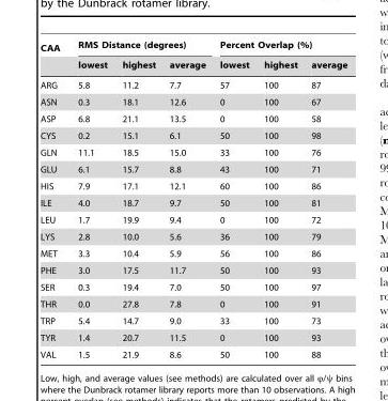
<table><thead><tr><td rowspan="2">CAA</td><td colspan="3">RMS Distance (degrees)</td><td colspan="3">Percent Overlap (%)</td></tr><tr><td>lowest</td><td>highest</td><td>average</td><td>lowest</td><td>highest</td><td>average</td></tr></thead><tbody><tr><td>ARG</td><td>5.8</td><td>11.2</td><td>7.7</td><td>57</td><td>100</td><td>87</td></tr><tr><td>ASN</td><td>0.3</td><td>18.1</td><td>12.6</td><td>0</td><td>100</td><td>67</td></tr><tr><td>ASP</td><td>6.8</td><td>21.1</td><td>13.5</td><td>0</td><td>100</td><td>58</td></tr><tr><td>CYS</td><td>0.2</td><td>15.1</td><td>6.1</td><td>50</td><td>100</td><td>98</td></tr><tr><td>GLN</td><td>11.1</td><td>18.5</td><td>15.0</td><td>33</td><td>100</td><td>76</td></tr><tr><td>GLU</td><td>6.1</td><td>15.7</td><td>8.8</td><td>43</td><td>100</td><td>71</td></tr><tr><td>HIS</td><td>7.9</td><td>17.1</td><td>12.1</td><td>60</td><td>100</td><td>86</td></tr><tr><td>ILE</td><td>4.0</td><td>18.7</td><td>9.7</td><td>50</td><td>100</td><td>81</td></tr><tr><td>LEU</td><td>1.7</td><td>19.9</td><td>9.4</td><td>0</td><td>100</td><td>72</td></tr><tr><td>LYS</td><td>2.8</td><td>10.0</td><td>5.6</td><td>36</td><td>100</td><td>79</td></tr><tr><td>MET</td><td>3.3</td><td>10.4</td><td>5.9</td><td>56</td><td>100</td><td>86</td></tr><tr><td>PHE</td><td>3.0</td><td>17.5</td><td>11.7</td><td>50</td><td>100</td><td>93</td></tr><tr><td>SER</td><td>0.3</td><td>19.4</td><td>7.0</td><td>50</td><td>100</td><td>97</td></tr><tr><td>THR</td><td>0.0</td><td>27.8</td><td>7.8</td><td>0</td><td>100</td><td>91</td></tr><tr><td>TRP</td><td>5.4</td><td>14.7</td><td>9.0</td><td>33</td><td>100</td><td>73</td></tr><tr><td>TYR</td><td>1.4</td><td>20.7</td><td>11.5</td><td>0</td><td>100</td><td>93</td></tr><tr><td>VAL</td><td>1.5</td><td>21.9</td><td>8.6</td><td>50</td><td>100</td><td>88</td></tr></tbody></table>